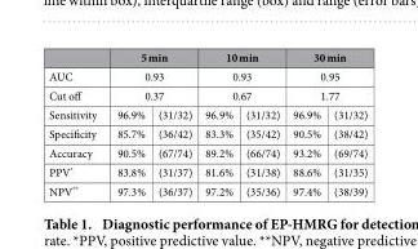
<table><thead><tr><td rowspan="4">AUC Cut off Sensitivity</td><td rowspan="3" colspan="2">5 min 0.93 0.37</td><td rowspan="3" colspan="2">10 min 0.93 0.67</td><td rowspan="3" colspan="2">30 min 0.95 1.77</td></tr><tr></tr><tr></tr><tr><td>96.9%</td><td>(31/32)</td><td>96.9%</td><td>(31/32)</td><td>96.9%</td><td>(31/32)</td></tr></thead><tbody><tr><td>Specificity</td><td>85.7%</td><td>(36/42)</td><td>83.3%</td><td>(35/42)</td><td>90.5%</td><td>(38/42)</td></tr><tr><td>Accuracy</td><td>90.5%</td><td>(67/74)</td><td>89.2%</td><td>(66/74)</td><td>93.2%</td><td>(69/74)</td></tr><tr><td>PPV*</td><td>83.8%</td><td>(31/37)</td><td>81.6%</td><td>(31/38)</td><td>88.6%</td><td>(31/35)</td></tr><tr><td>NPV**</td><td>97.3%</td><td>(36/37)</td><td>97.2%</td><td>(35/36)</td><td>97.4%</td><td>(38/39)</td></tr></tbody></table>